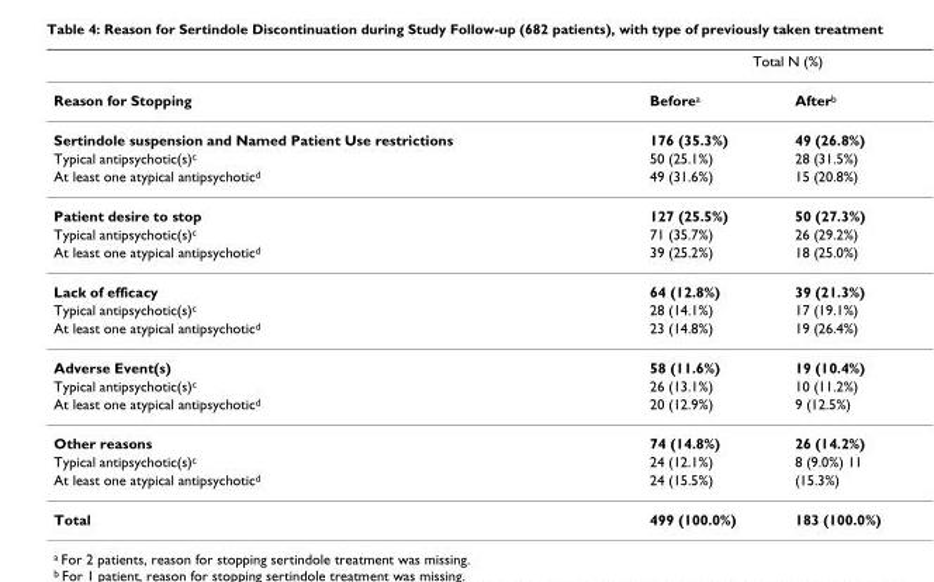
<table><thead><tr><td rowspan="2">Reason for Stopping</td><td colspan="2">Total N (%)</td></tr><tr><td>Before<sup>a</sup></td><td>After<sup>b</sup></td></tr></thead><tbody><tr><td>Sertindole suspension and Named Patient Use restrictions</td><td>176 (35.3%)</td><td>49 (26.8%)</td></tr><tr><td>Typical antipsychotic(s)<sup>c</sup></td><td>50 (25.1%)</td><td>28 (31.5%)</td></tr><tr><td>At least one atypical antipsychotic<sup>d</sup></td><td>49 (31.6%)</td><td>15 (20.8%)</td></tr><tr><td>Patient desire to stop</td><td>127 (25.5%)</td><td>50 (27.3%)</td></tr><tr><td>Typical antipsychotic(s)<sup>c</sup></td><td>71 (35.7%)</td><td>26 (29.2%)</td></tr><tr><td>At least one atypical antipsychotic<sup>d</sup></td><td>39 (25.2%)</td><td>18 (25.0%)</td></tr><tr><td>Lack of efficacy</td><td>64 (12.8%)</td><td>39 (21.3%)</td></tr><tr><td>Typical antipsychotic(s)<sup>c</sup></td><td>28 (14.1%)</td><td>17 (19.1%)</td></tr><tr><td>At least one atypical antipsychotic<sup>d</sup></td><td>23 (14.8%)</td><td>19 (26.4%)</td></tr><tr><td>Adverse Event(s)</td><td>58 (11.6%)</td><td>19 (10.4%)</td></tr><tr><td>Typical antipsychotic(s)<sup>c</sup></td><td>26 (13.1%)</td><td>10 (11.2%)</td></tr><tr><td>At least one atypical antipsychotic<sup>d</sup></td><td>20 (12.9%)</td><td>9 (12.5%)</td></tr><tr><td>Other reasons</td><td>74 (14.8%)</td><td>26 (14.2%)</td></tr><tr><td>Typical antipsychotic(s)<sup>c</sup></td><td>24 (12.1%)</td><td>8 (9.0%) 11</td></tr><tr><td>At least one atypical antipsychotic<sup>d</sup></td><td>24 (15.5%)</td><td>(15.3%)</td></tr><tr><td>Total</td><td>499 (100.0%)</td><td>183 (100.0%)</td></tr></tbody></table>